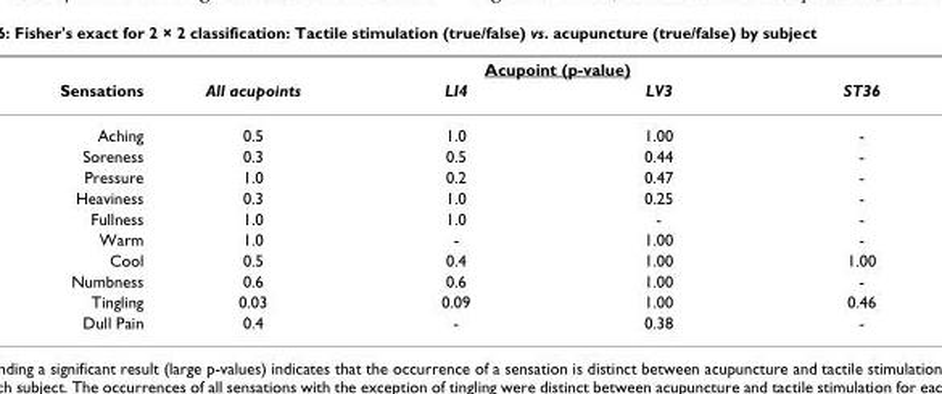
<table><thead><tr><td rowspan="2">Sensations</td><td colspan="4">Acupoint (p-value)</td></tr><tr><td>All acupoints</td><td>LI4</td><td>LV3</td><td>ST36</td></tr></thead><tbody><tr><td>Aching</td><td>0.5</td><td>1.0</td><td>1.00</td><td>-</td></tr><tr><td>Soreness</td><td>0.3</td><td>0.5</td><td>0.44</td><td>-</td></tr><tr><td>Pressure</td><td>1.0</td><td>0.2</td><td>0.47</td><td>-</td></tr><tr><td>Heaviness</td><td>0.3</td><td>1.0</td><td>0.25</td><td>-</td></tr><tr><td>Fullness</td><td>1.0</td><td>1.0</td><td>-</td><td>-</td></tr><tr><td>Warm</td><td>1.0</td><td>-</td><td>1.00</td><td>-</td></tr><tr><td>Cool</td><td>0.5</td><td>0.4</td><td>1.00</td><td>1.00</td></tr><tr><td>Numbness</td><td>0.6</td><td>0.6</td><td>1.00</td><td>-</td></tr><tr><td>Tingling</td><td>0.03</td><td>0.09</td><td>1.00</td><td>0.46</td></tr><tr><td>Dull Pain</td><td>0.4</td><td>-</td><td>0.38</td><td>-</td></tr></tbody></table>